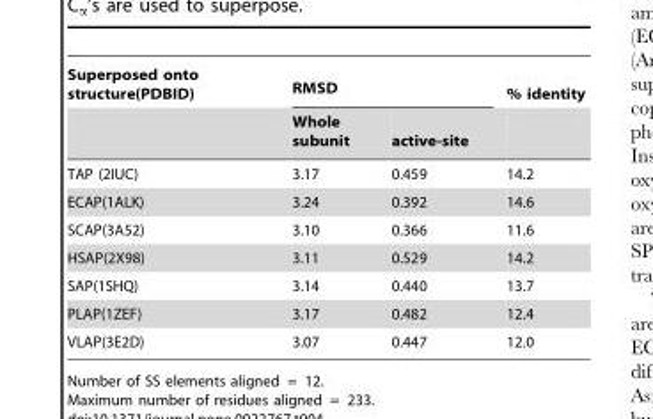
<table><thead><tr><td rowspan="2">Superposed onto structure(PDBID)</td><td colspan="2">RMSD</td><td rowspan="2">% identity</td></tr><tr><td>Whole subunit</td><td>active-site</td></tr></thead><tbody><tr><td>TAP (2IUC)</td><td>3.17</td><td>0.459</td><td>14.2</td></tr><tr><td>ECAP(1ALK)</td><td>3.24</td><td>0.392</td><td>14.6</td></tr><tr><td>SCAP(3A52)</td><td>3.10</td><td>0.366</td><td>11.6</td></tr><tr><td>HSAP(2X98)</td><td>3.11</td><td>0.529</td><td>14.2</td></tr><tr><td>SAP(1SHQ)</td><td>3.14</td><td>0.440</td><td>13.7</td></tr><tr><td>PLAP(1ZEF)</td><td>3.17</td><td>0.482</td><td>12.4</td></tr><tr><td>VLAP(3E2D)</td><td>3.07</td><td>0.447</td><td>12.0</td></tr></tbody></table>